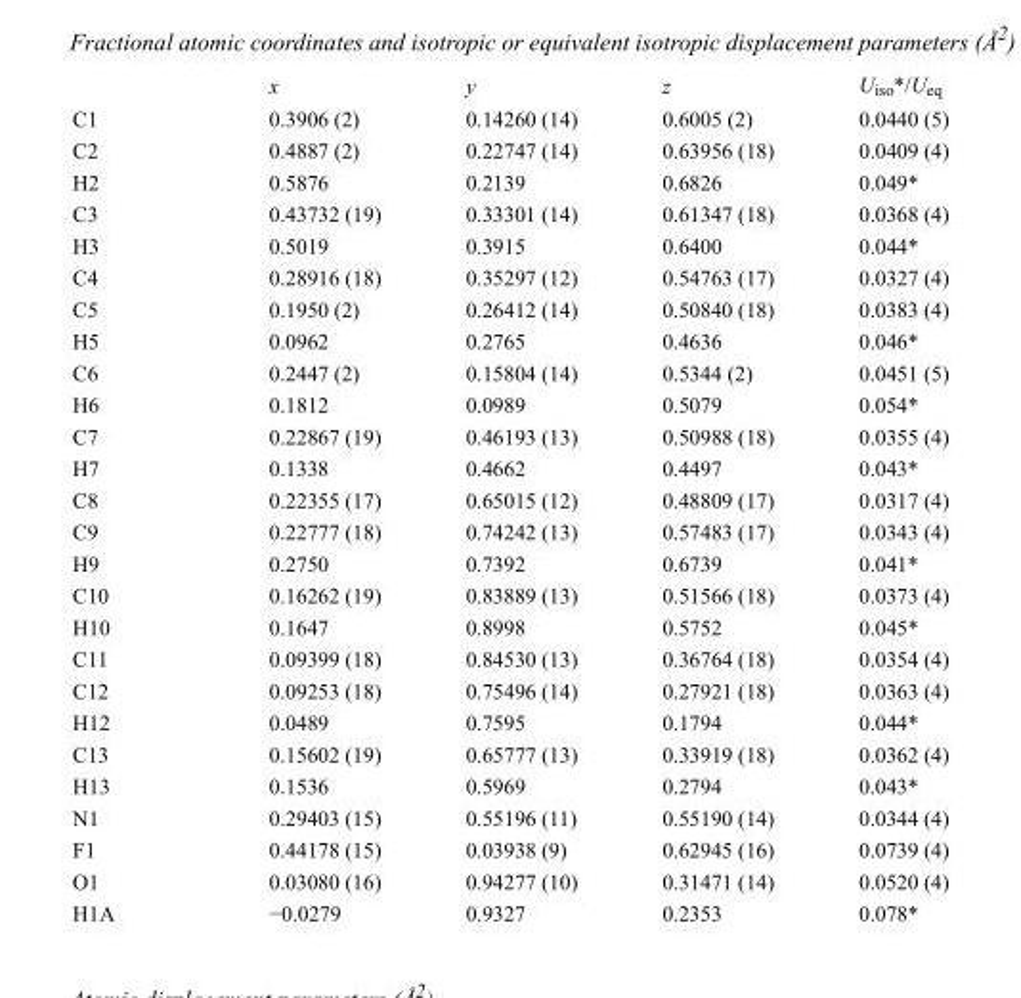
<table><thead><tr><td></td><td>x</td><td>y</td><td>z</td><td>U<sub>iso</sub>*/U<sub>eq</sub></td></tr></thead><tbody><tr><td>C1</td><td>0.3906 (2)</td><td>0.14260 (14)</td><td>0.6005 (2)</td><td>0.0440 (5)</td></tr><tr><td>C2</td><td>0.4887 (2)</td><td>0.22747 (14)</td><td>0.63956 (18)</td><td>0.0409 (4)</td></tr><tr><td>H2</td><td>0.5876</td><td>0.2139</td><td>0.6826</td><td>0.049*</td></tr><tr><td>C3</td><td>0.43732 (19)</td><td>0.33301 (14)</td><td>0.61347 (18)</td><td>0.0368 (4)</td></tr><tr><td>H3</td><td>0.5019</td><td>0.3915</td><td>0.6400</td><td>0.044*</td></tr><tr><td>C4</td><td>0.28916 (18)</td><td>0.35297 (12)</td><td>0.54763 (17)</td><td>0.0327 (4)</td></tr><tr><td>C5</td><td>0.1950 (2)</td><td>0.26412 (14)</td><td>0.50840 (18)</td><td>0.0383 (4)</td></tr><tr><td>H5</td><td>0.0962</td><td>0.2765</td><td>0.4636</td><td>0.046*</td></tr><tr><td>C6</td><td>0.2447 (2)</td><td>0.15804 (14)</td><td>0.5344 (2)</td><td>0.0451 (5)</td></tr><tr><td>H6</td><td>0.1812</td><td>0.0989</td><td>0.5079</td><td>0.054*</td></tr><tr><td>C7</td><td>0.22867 (19)</td><td>0.46193 (13)</td><td>0.50988 (18)</td><td>0.0355 (4)</td></tr><tr><td>H7</td><td>0.1338</td><td>0.4662</td><td>0.4497</td><td>0.043*</td></tr><tr><td>C8</td><td>0.22355 (17)</td><td>0.65015 (12)</td><td>0.48809 (17)</td><td>0.0317 (4)</td></tr><tr><td>C9</td><td>0.22777 (18)</td><td>0.74242 (13)</td><td>0.57483 (17)</td><td>0.0343 (4)</td></tr><tr><td>H9</td><td>0.2750</td><td>0.7392</td><td>0.6739</td><td>0.041*</td></tr><tr><td>C10</td><td>0.16262 (19)</td><td>0.83889 (13)</td><td>0.51566 (18)</td><td>0.0373 (4)</td></tr><tr><td>H10</td><td>0.1647</td><td>0.8998</td><td>0.5752</td><td>0.045*</td></tr><tr><td>C11</td><td>0.09399 (18)</td><td>0.84530 (13)</td><td>0.36764 (18)</td><td>0.0354 (4)</td></tr><tr><td>C12</td><td>0.09253 (18)</td><td>0.75496 (14)</td><td>0.27921 (18)</td><td>0.0363 (4)</td></tr><tr><td>H12</td><td>0.0489</td><td>0.7595</td><td>0.1794</td><td>0.044*</td></tr><tr><td>C13</td><td>0.15602 (19)</td><td>0.65777 (13)</td><td>0.33919 (18)</td><td>0.0362 (4)</td></tr><tr><td>H13</td><td>0.1536</td><td>0.5969</td><td>0.2794</td><td>0.043*</td></tr><tr><td>N1</td><td>0.29403 (15)</td><td>0.55196 (11)</td><td>0.55190 (14)</td><td>0.0344 (4)</td></tr><tr><td>F1</td><td>0.44178 (15)</td><td>0.03938 (9)</td><td>0.62945 (16)</td><td>0.0739 (4)</td></tr><tr><td>O1</td><td>0.03080 (16)</td><td>0.94277 (10)</td><td>0.31471 (14)</td><td>0.0520 (4)</td></tr><tr><td>H1A</td><td>−0.0279</td><td>0.9327</td><td>0.2353</td><td>0.078*</td></tr></tbody></table>